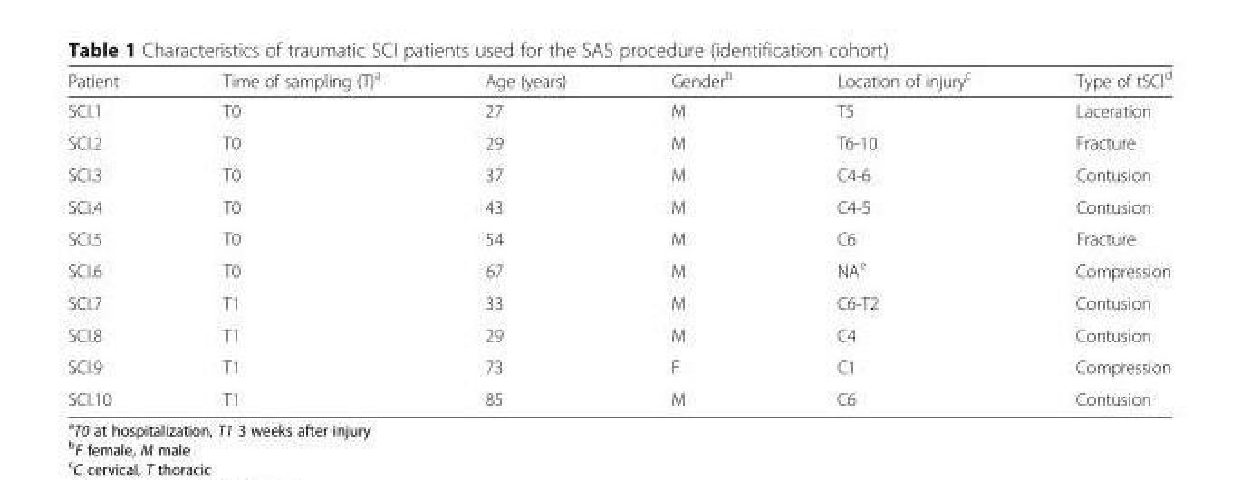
<table><thead><tr><td>Patient</td><td>Time of sampling (T)<sup>a</sup></td><td>Age (years)</td><td>Gender<sup>b</sup></td><td>Location of injury<sup>c</sup></td><td>Type of tSCI<sup>d</sup></td></tr></thead><tbody><tr><td>SCI.1</td><td>T0</td><td>27</td><td>M</td><td>T5</td><td>Laceration</td></tr><tr><td>SCI.2</td><td>T0</td><td>29</td><td>M</td><td>T6-10</td><td>Fracture</td></tr><tr><td>SCI.3</td><td>T0</td><td>37</td><td>M</td><td>C4-6</td><td>Contusion</td></tr><tr><td>SCI.4</td><td>T0</td><td>43</td><td>M</td><td>C4-5</td><td>Contusion</td></tr><tr><td>SCI.5</td><td>T0</td><td>54</td><td>M</td><td>C6</td><td>Fracture</td></tr><tr><td>SCI.6</td><td>T0</td><td>67</td><td>M</td><td>NA<sup>e</sup></td><td>Compression</td></tr><tr><td>SCI.7</td><td>T1</td><td>33</td><td>M</td><td>C6-T2</td><td>Contusion</td></tr><tr><td>SCI.8</td><td>T1</td><td>29</td><td>M</td><td>C4</td><td>Contusion</td></tr><tr><td>SCI.9</td><td>T1</td><td>73</td><td>F</td><td>C1</td><td>Compression</td></tr><tr><td>SCI.10</td><td>T1</td><td>85</td><td>M</td><td>C6</td><td>Contusion</td></tr></tbody></table>